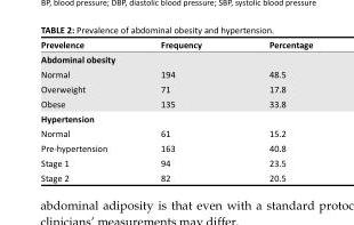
<table><thead><tr><td>Prevelence</td><td>Frequency</td><td>Percentage</td></tr></thead><tbody><tr><td colspan="3">Abdominal obesity</td></tr><tr><td>Normal</td><td>194</td><td>48.5</td></tr><tr><td>Overweight</td><td>71</td><td>17.8</td></tr><tr><td>Obese</td><td>135</td><td>33.8</td></tr><tr><td colspan="3">Hypertension</td></tr><tr><td>Normal</td><td>61</td><td>15.2</td></tr><tr><td>Pre-hypertension</td><td>163</td><td>40.8</td></tr><tr><td>Stage 1</td><td>94</td><td>23.5</td></tr><tr><td>Stage 2</td><td>82</td><td>20.5</td></tr></tbody></table>